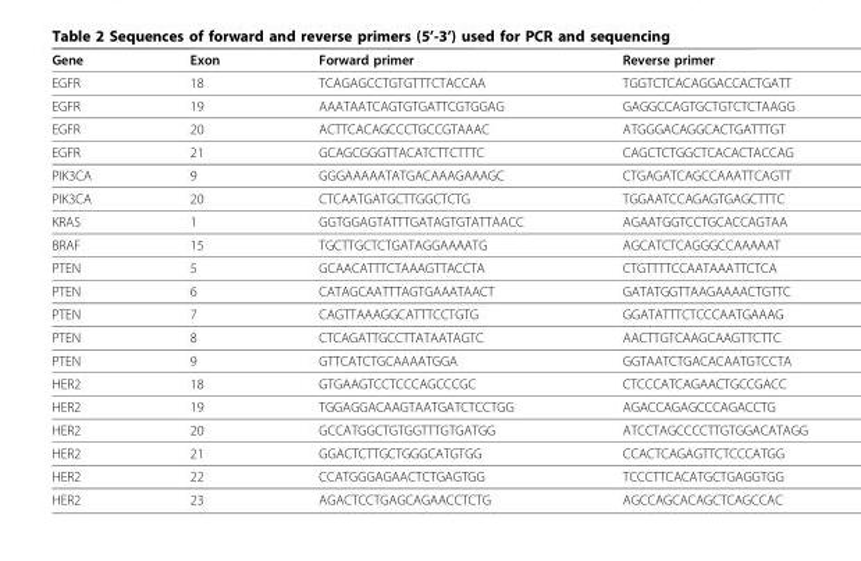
<table><thead><tr><td>Gene</td><td>Exon</td><td>Forward primer</td><td>Reverse primer</td></tr></thead><tbody><tr><td>EGFR</td><td>18</td><td>TCAGAGCCTGTGTTTCTACCAA</td><td>TGGTCTCACAGGACCACTGATT</td></tr><tr><td>EGFR</td><td>19</td><td>AAATAATCAGTGTGATTCGTGGAG</td><td>GAGGCCAGTGCTGTCTCTAAGG</td></tr><tr><td>EGFR</td><td>20</td><td>ACTTCACAGCCCTGCCGTAAAC</td><td>ATGGGACAGGCACTGATTTGT</td></tr><tr><td>EGFR</td><td>21</td><td>GCAGCGGGTTACATCTTCTTTC</td><td>CAGCTCTGGCTCACACTACCAG</td></tr><tr><td>PIK3CA</td><td>9</td><td>GGGAAAAATATGACAAAGAAAGC</td><td>CTGAGATCAGCCAAATTCAGTT</td></tr><tr><td>PIK3CA</td><td>20</td><td>CTCAATGATGCTTGGCTCTG</td><td>TGGAATCCAGAGTGAGCTTTC</td></tr><tr><td>KRAS</td><td>1</td><td>GGTGGAGTATTTGATAGTGTATTAACC</td><td>AGAATGGTCCTGCACCAGTAA</td></tr><tr><td>BRAF</td><td>15</td><td>TGCTTGCTCTGATAGGAAAATG</td><td>AGCATCTCAGGGCCAAAAAT</td></tr><tr><td>PTEN</td><td>5</td><td>GCAACATTTCTAAAGTTACCTA</td><td>CTGTTTTCCAATAAATTCTCA</td></tr><tr><td>PTEN</td><td>6</td><td>CATAGCAATTTAGTGAAATAACT</td><td>GATATGGTTAAGAAAACTGTTC</td></tr><tr><td>PTEN</td><td>7</td><td>CAGTTAAAGGCATTTCCTGTG</td><td>GGATATTTCTCCCAATGAAAG</td></tr><tr><td>PTEN</td><td>8</td><td>CTCAGATTGCCTTATAATAGTC</td><td>AACTTGTCAAGCAAGTTCTTC</td></tr><tr><td>PTEN</td><td>9</td><td>GTTCATCTGCAAAATGGA</td><td>GGTAATCTGACACAATGTCCTA</td></tr><tr><td>HER2</td><td>18</td><td>GTGAAGTCCTCCCAGCCCGC</td><td>CTCCCATCAGAACTGCCGACC</td></tr><tr><td>HER2</td><td>19</td><td>TGGAGGACAAGTAATGATCTCCTGG</td><td>AGACCAGAGCCCAGACCTG</td></tr><tr><td>HER2</td><td>20</td><td>GCCATGGCTGTGGTTTGTGATGG</td><td>ATCCTAGCCCCTTGTGGACATAGG</td></tr><tr><td>HER2</td><td>21</td><td>GGACTCTTGCTGGGCATGTGG</td><td>CCACTCAGAGTTCTCCCATGG</td></tr><tr><td>HER2</td><td>22</td><td>CCATGGGAGAACTCTGAGTGG</td><td>TCCCTTCACATGCTGAGGTGG</td></tr><tr><td>HER2</td><td>23</td><td>AGACTCCTGAGCAGAACCTCTG</td><td>AGCCAGCACAGCTCAGCCAC</td></tr></tbody></table>